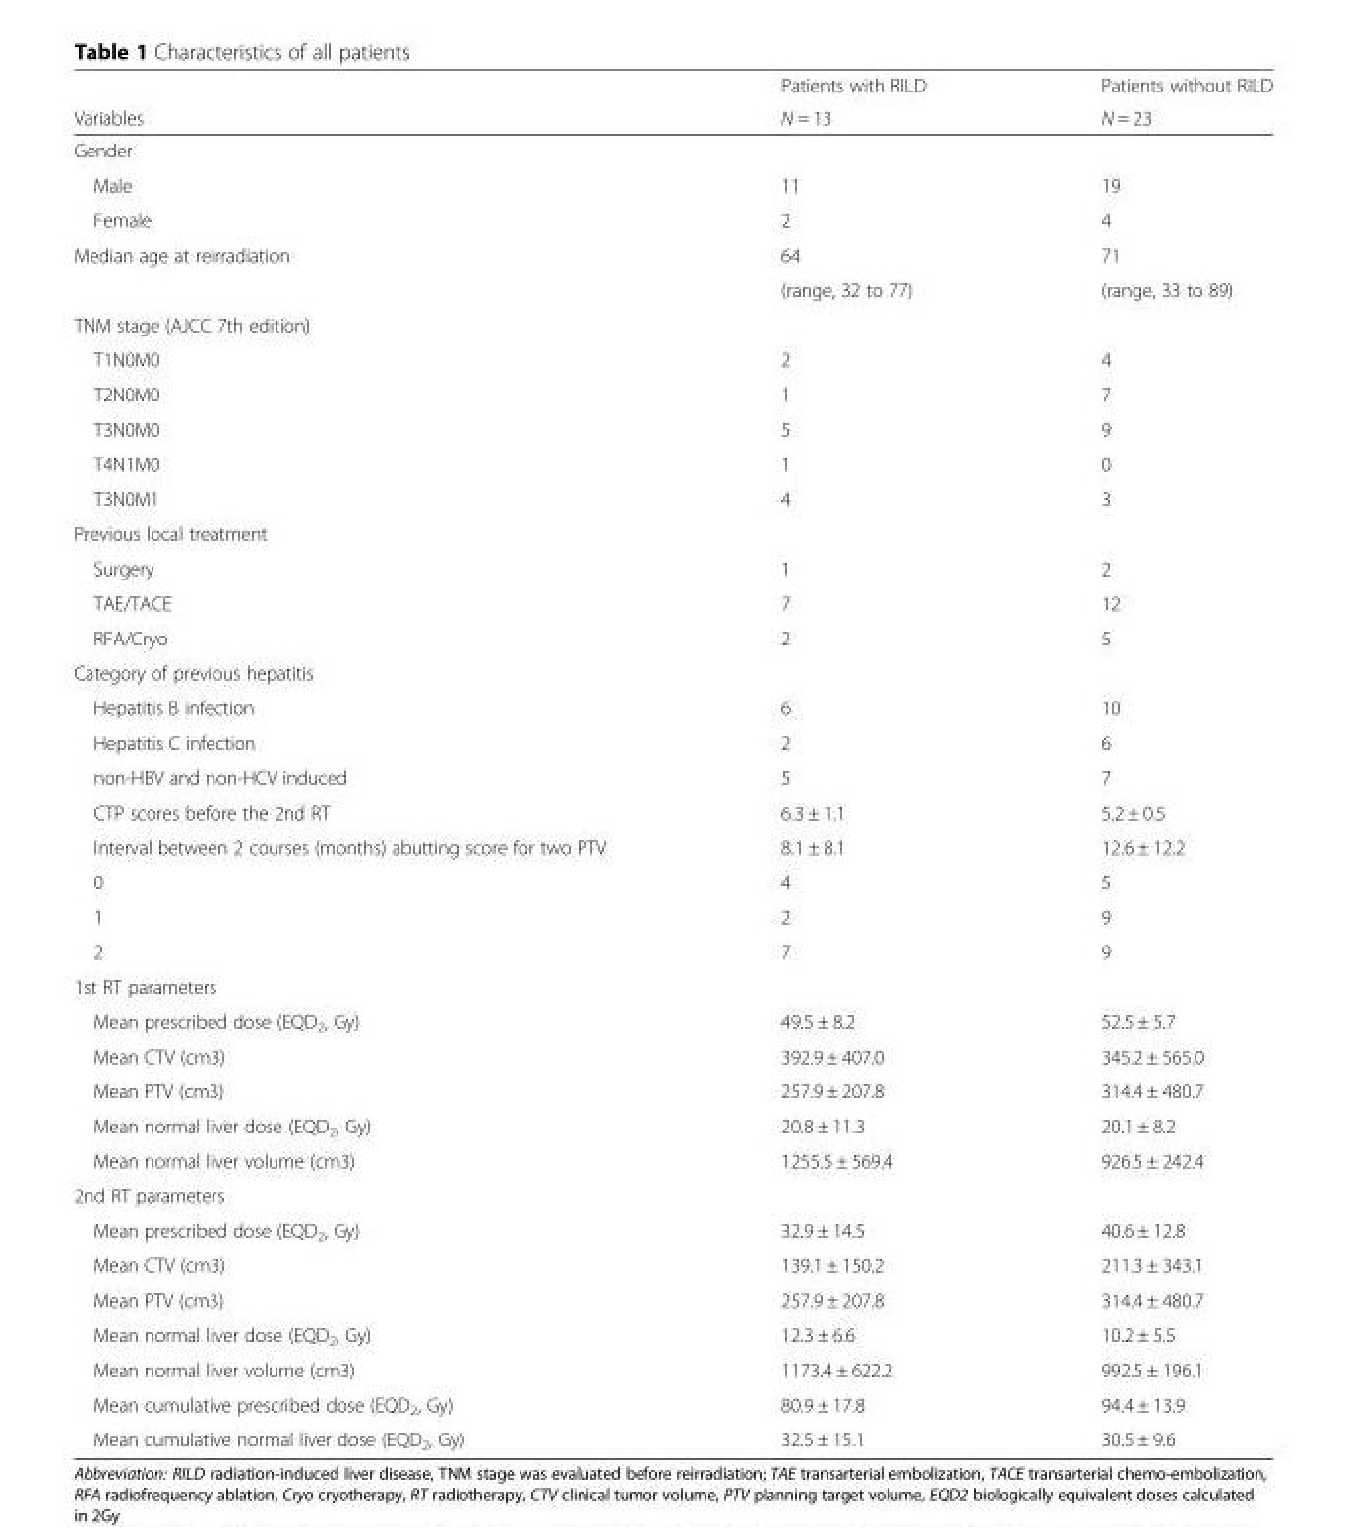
<table><thead><tr><td rowspan="2">Variables</td><td rowspan="2">Patients with RILD N = 13</td><td rowspan="2">Patients without RILD N = 23</td></tr><tr></tr></thead><tbody><tr><td colspan="3">Gender</td></tr><tr><td>Male</td><td>11</td><td>19</td></tr><tr><td>Female</td><td>2</td><td>4</td></tr><tr><td rowspan="2">Median age at reirradiation</td><td>64</td><td>71</td></tr><tr><td>(range, 32 to 77)</td><td>(range, 33 to 89)</td></tr><tr><td colspan="3">TNM stage (AJCC 7th edition)</td></tr><tr><td>T1N0M0</td><td>2</td><td>4</td></tr><tr><td>T2N0M0</td><td>1</td><td>7</td></tr><tr><td>T3N0M0</td><td>5</td><td>9</td></tr><tr><td>T4N1M0</td><td>1</td><td>0</td></tr><tr><td>T3N0M1</td><td>4</td><td>3</td></tr><tr><td colspan="3">Previous local treatment</td></tr><tr><td>Surgery</td><td>1</td><td>2</td></tr><tr><td>TAE/TACE</td><td>7</td><td>12</td></tr><tr><td>RFA/Cryo</td><td>2</td><td>5</td></tr><tr><td colspan="3">Category of previous hepatitis</td></tr><tr><td>Hepatitis B infection</td><td>6</td><td>10</td></tr><tr><td>Hepatitis C infection</td><td>2</td><td>6</td></tr><tr><td>non-HBV and non-HCV induced</td><td>5</td><td>7</td></tr><tr><td>CTP scores before the 2nd RT</td><td>6.3 ± 1.1</td><td>5.2 ± 0.5</td></tr><tr><td>Interval between 2 courses (months) abutting score for two PTV</td><td>8.1 ± 8.1</td><td>12.6 ± 12.2</td></tr><tr><td>0</td><td>4</td><td>5</td></tr><tr><td>1</td><td>2</td><td>9</td></tr><tr><td>2</td><td>7</td><td>9</td></tr><tr><td colspan="3">1st RT parameters</td></tr><tr><td>Mean prescribed dose (EQD<sub>2</sub>, Gy)</td><td>49.5 ± 8.2</td><td>52.5 ± 5.7</td></tr><tr><td>Mean CTV (cm3)</td><td>392.9 ± 407.0</td><td>345.2 ± 565.0</td></tr><tr><td>Mean PTV (cm3)</td><td>257.9 ± 207.8</td><td>314.4 ± 480.7</td></tr><tr><td>Mean normal liver dose (EQD<sub>2</sub>, Gy)</td><td>20.8 ± 11.3</td><td>20.1 ± 8.2</td></tr><tr><td>Mean normal liver volume (cm3)</td><td>1255.5 ± 569.4</td><td>926.5 ± 242.4</td></tr><tr><td colspan="3">2nd RT parameters</td></tr><tr><td>Mean prescribed dose (EQD<sub>2</sub>, Gy)</td><td>32.9 ± 14.5</td><td>40.6 ± 12.8</td></tr><tr><td>Mean CTV (cm3)</td><td>139.1 ± 150.2</td><td>211.3 ± 343.1</td></tr><tr><td>Mean PTV (cm3)</td><td>257.9 ± 207.8</td><td>314.4 ± 480.7</td></tr><tr><td>Mean normal liver dose (EQD<sub>2</sub>, Gy)</td><td>12.3 ± 6.6</td><td>10.2 ± 5.5</td></tr><tr><td>Mean normal liver volume (cm3)</td><td>1173.4 ± 622.2</td><td>992.5 ± 196.1</td></tr><tr><td>Mean cumulative prescribed dose (EQD<sub>2</sub>, Gy)</td><td>80.9 ± 17.8</td><td>94.4 ± 13.9</td></tr><tr><td>Mean cumulative normal liver dose (EQD<sub>2</sub>, Gy)</td><td>32.5 ± 15.1</td><td>30.5 ± 9.6</td></tr></tbody></table>